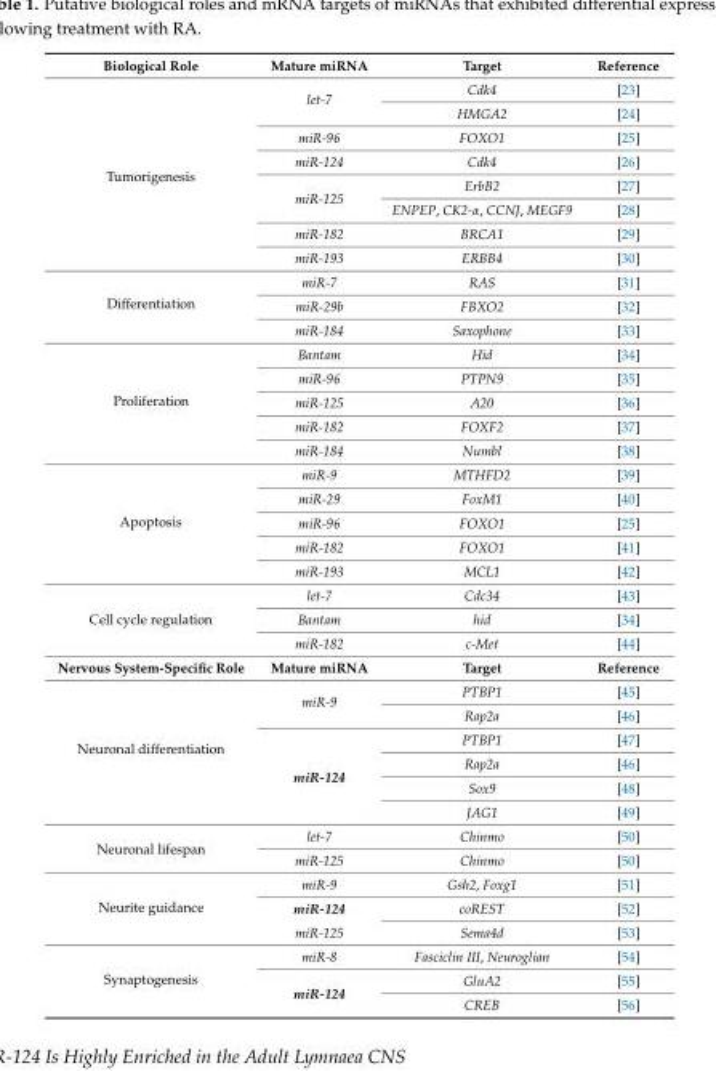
<table><tbody><tr><td>Biological Role</td><td>Mature miRNA</td><td>Target</td><td>Reference</td></tr><tr><td rowspan="8">Tumorigenesis</td><td rowspan="2">let-7</td><td>Cdk4</td><td>[23]</td></tr><tr><td>HMGA2</td><td>[24]</td></tr><tr><td>miR-96</td><td>FOXO1</td><td>[25]</td></tr><tr><td>miR-124</td><td>Cdk4</td><td>[26]</td></tr><tr><td rowspan="2">miR-125</td><td>ErbB2</td><td>[27]</td></tr><tr><td>ENPEP, CK2-α, CCNJ, MEGF9</td><td>[28]</td></tr><tr><td>miR-182</td><td>BRCA1</td><td>[29]</td></tr><tr><td>miR-193</td><td>ERBB4</td><td>[30]</td></tr><tr><td rowspan="3">Differentiation</td><td>miR-7</td><td>RAS</td><td>[31]</td></tr><tr><td>miR-29b</td><td>FBXO2</td><td>[32]</td></tr><tr><td>miR-184</td><td>Saxophone</td><td>[33]</td></tr><tr><td rowspan="5">Proliferation</td><td>Bantam</td><td>Hid</td><td>[34]</td></tr><tr><td>miR-96</td><td>PTPN9</td><td>[35]</td></tr><tr><td>miR-125</td><td>A20</td><td>[36]</td></tr><tr><td>miR-182</td><td>FOXF2</td><td>[37]</td></tr><tr><td>miR-184</td><td>Numbl</td><td>[38]</td></tr><tr><td rowspan="5">Apoptosis</td><td>miR-9</td><td>MTHFD2</td><td>[39]</td></tr><tr><td>miR-29</td><td>FoxM1</td><td>[40]</td></tr><tr><td>miR-96</td><td>FOXO1</td><td>[25]</td></tr><tr><td>miR-182</td><td>FOXO1</td><td>[41]</td></tr><tr><td>miR-193</td><td>MCL1</td><td>[42]</td></tr><tr><td rowspan="3">Cell cycle regulation</td><td>let-7</td><td>Cdc34</td><td>[43]</td></tr><tr><td>Bantam</td><td>hid</td><td>[34]</td></tr><tr><td>miR-182</td><td>c-Met</td><td>[44]</td></tr><tr><td>Nervous System-Specific Role</td><td>Mature miRNA</td><td>Target</td><td>Reference</td></tr><tr><td rowspan="6">Neuronal differentiation</td><td rowspan="2">miR-9</td><td>PTBP1</td><td>[45]</td></tr><tr><td>Rap2a</td><td>[46]</td></tr><tr><td rowspan="4">miR-124</td><td>PTBP1</td><td>[47]</td></tr><tr><td>Rap2a</td><td>[46]</td></tr><tr><td>Sox9</td><td>[48]</td></tr><tr><td>JAG1</td><td>[49]</td></tr><tr><td rowspan="2">Neuronal lifespan</td><td>let-7</td><td>Chinmo</td><td>[50]</td></tr><tr><td>miR-125</td><td>Chinmo</td><td>[50]</td></tr><tr><td rowspan="3">Neurite guidance</td><td>miR-9</td><td>Gsh2, Foxg1</td><td>[51]</td></tr><tr><td>miR-124</td><td>coREST</td><td>[52]</td></tr><tr><td>miR-125</td><td>Sema4d</td><td>[53]</td></tr><tr><td rowspan="3">Synaptogenesis</td><td>miR-8</td><td>Fasciclin III, Neuroglian</td><td>[54]</td></tr><tr><td rowspan="2">miR-124</td><td>GluA2</td><td>[55]</td></tr><tr><td>CREB</td><td>[56]</td></tr></tbody></table>